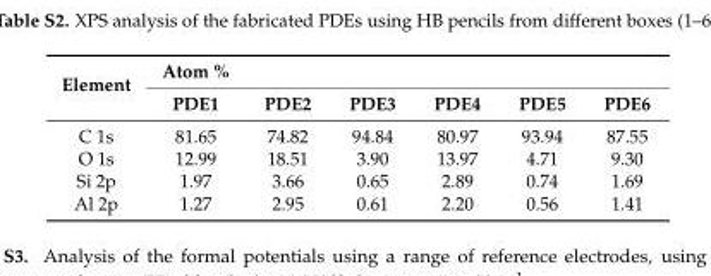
<table><thead><tr><td rowspan="2">Element</td><td rowspan="2">Atom % PDE1</td><td rowspan="2">PDE2</td><td rowspan="2">PDE3</td><td rowspan="2">PDE4</td><td rowspan="2">PDE5</td><td rowspan="2">PDE6</td></tr><tr></tr></thead><tbody><tr><td>C 1s</td><td>81.65</td><td>74.82</td><td>94.84</td><td>80.97</td><td>93.94</td><td>87.55</td></tr><tr><td>O 1s</td><td>12.99</td><td>18.51</td><td>3.90</td><td>13.97</td><td>4.71</td><td>9.30</td></tr><tr><td>Si 2p</td><td>1.97</td><td>3.66</td><td>0.65</td><td>2.89</td><td>0.74</td><td>1.69</td></tr><tr><td>Al 2p</td><td>1.27</td><td>2.95</td><td>0.61</td><td>2.20</td><td>0.56</td><td>1.41</td></tr></tbody></table>